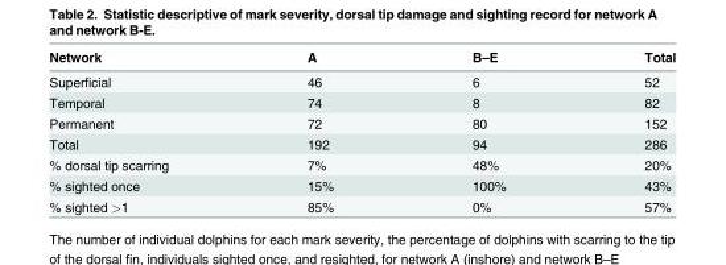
<table><thead><tr><td>Network</td><td>A</td><td>B–E</td><td>Total</td></tr></thead><tbody><tr><td>Superficial</td><td>46</td><td>6</td><td>52</td></tr><tr><td>Temporal</td><td>74</td><td>8</td><td>82</td></tr><tr><td>Permanent</td><td>72</td><td>80</td><td>152</td></tr><tr><td>Total</td><td>192</td><td>94</td><td>286</td></tr><tr><td>% dorsal tip scarring</td><td>7%</td><td>48%</td><td>20%</td></tr><tr><td>% sighted once</td><td>15%</td><td>100%</td><td>43%</td></tr><tr><td>% sighted &gt;1</td><td>85%</td><td>0%</td><td>57%</td></tr></tbody></table>